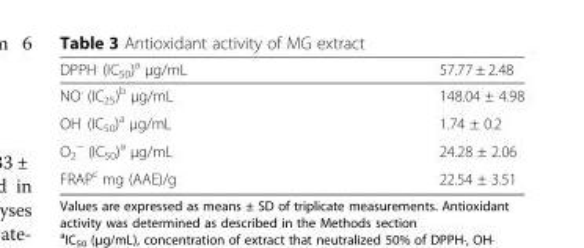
<table><thead><tr><td>DPPH<sup>.</sup> (IC<sub>50</sub>)<sup>a</sup> μg/mL</td><td>57.77 ± 2.48</td></tr></thead><tbody><tr><td>NO<sup>.</sup> (IC<sub>25</sub>)<sup>b</sup> μg/mL</td><td>148.04 ± 4.98</td></tr><tr><td>OH<sup>·</sup> (IC<sub>50</sub>)<sup>a</sup> μg/mL</td><td>1.74 ± 0.2</td></tr><tr><td>O<sub>2</sub> <sup>−</sup> (IC<sub>50</sub>)<sup>a</sup> μg/mL</td><td>24.28 ± 2.06</td></tr><tr><td>FRAP<sup>c</sup> mg (AAE)/g</td><td>22.54 ± 3.51</td></tr></tbody></table>